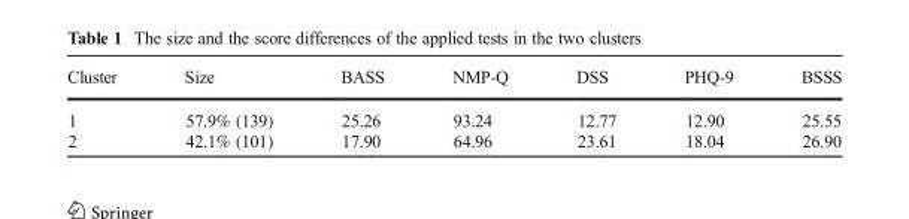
<table><thead><tr><td>Cluster</td><td>Size</td><td>BASS</td><td>NMP-Q</td><td>DSS</td><td>PHQ-9</td><td>BSSS</td></tr></thead><tbody><tr><td>1</td><td>57.9% (139)</td><td>25.26</td><td>93.24</td><td>12.77</td><td>12.90</td><td>25.55</td></tr><tr><td>2</td><td>42.1% (101)</td><td>17.90</td><td>64.96</td><td>23.61</td><td>18.04</td><td>26.90</td></tr></tbody></table>